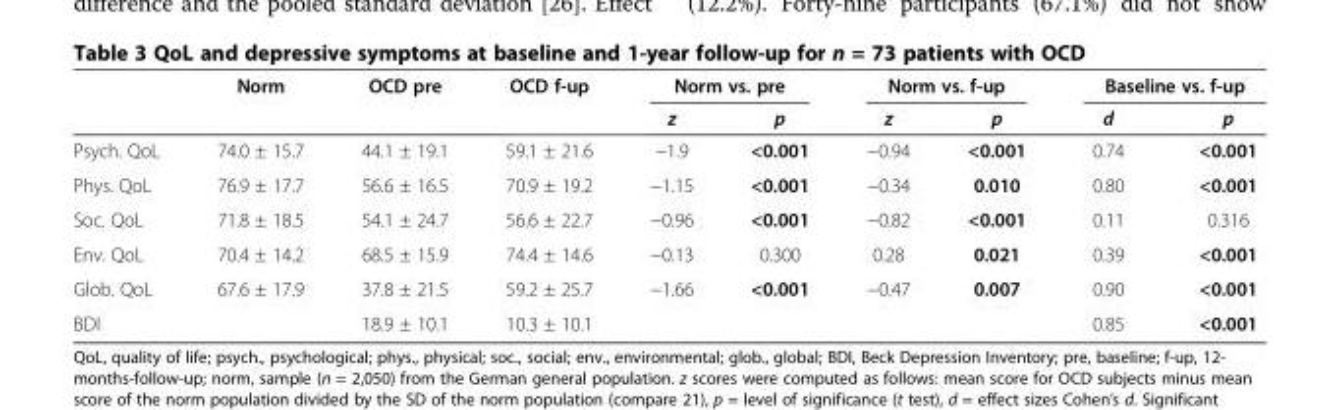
<table><thead><tr><td rowspan="2"></td><td rowspan="2">Norm</td><td rowspan="2">OCD pre</td><td rowspan="2">OCD f-up</td><td colspan="2">Norm vs. pre</td><td colspan="2">Norm vs. f-up</td><td colspan="2">Baseline vs. f-up</td></tr><tr><td>z</td><td>p</td><td>z</td><td>p</td><td>d</td><td>p</td></tr></thead><tbody><tr><td>Psych. QoL</td><td>74.0 ± 15.7</td><td>44.1 ± 19.1</td><td>59.1 ± 21.6</td><td>−1.9</td><td>&lt;0.001</td><td>−0.94</td><td>&lt;0.001</td><td>0.74</td><td>&lt;0.001</td></tr><tr><td>Phys. QoL</td><td>76.9 ± 17.7</td><td>56.6 ± 16.5</td><td>70.9 ± 19.2</td><td>−1.15</td><td>&lt;0.001</td><td>−0.34</td><td>0.010</td><td>0.80</td><td>&lt;0.001</td></tr><tr><td>Soc. QoL</td><td>71.8 ± 18.5</td><td>54.1 ± 24.7</td><td>56.6 ± 22.7</td><td>−0.96</td><td>&lt;0.001</td><td>−0.82</td><td>&lt;0.001</td><td>0.11</td><td>0.316</td></tr><tr><td>Env. QoL</td><td>70.4 ± 14.2</td><td>68.5 ± 15.9</td><td>74.4 ± 14.6</td><td>−0.13</td><td>0.300</td><td>0.28</td><td>0.021</td><td>0.39</td><td>&lt;0.001</td></tr><tr><td>Glob. QoL</td><td>67.6 ± 17.9</td><td>37.8 ± 21.5</td><td>59.2 ± 25.7</td><td>−1.66</td><td>&lt;0.001</td><td>−0.47</td><td>0.007</td><td>0.90</td><td>&lt;0.001</td></tr><tr><td>BDI</td><td></td><td>18.9 ± 10.1</td><td>10.3 ± 10.1</td><td></td><td></td><td></td><td></td><td>0.85</td><td>&lt;0.001</td></tr></tbody></table>